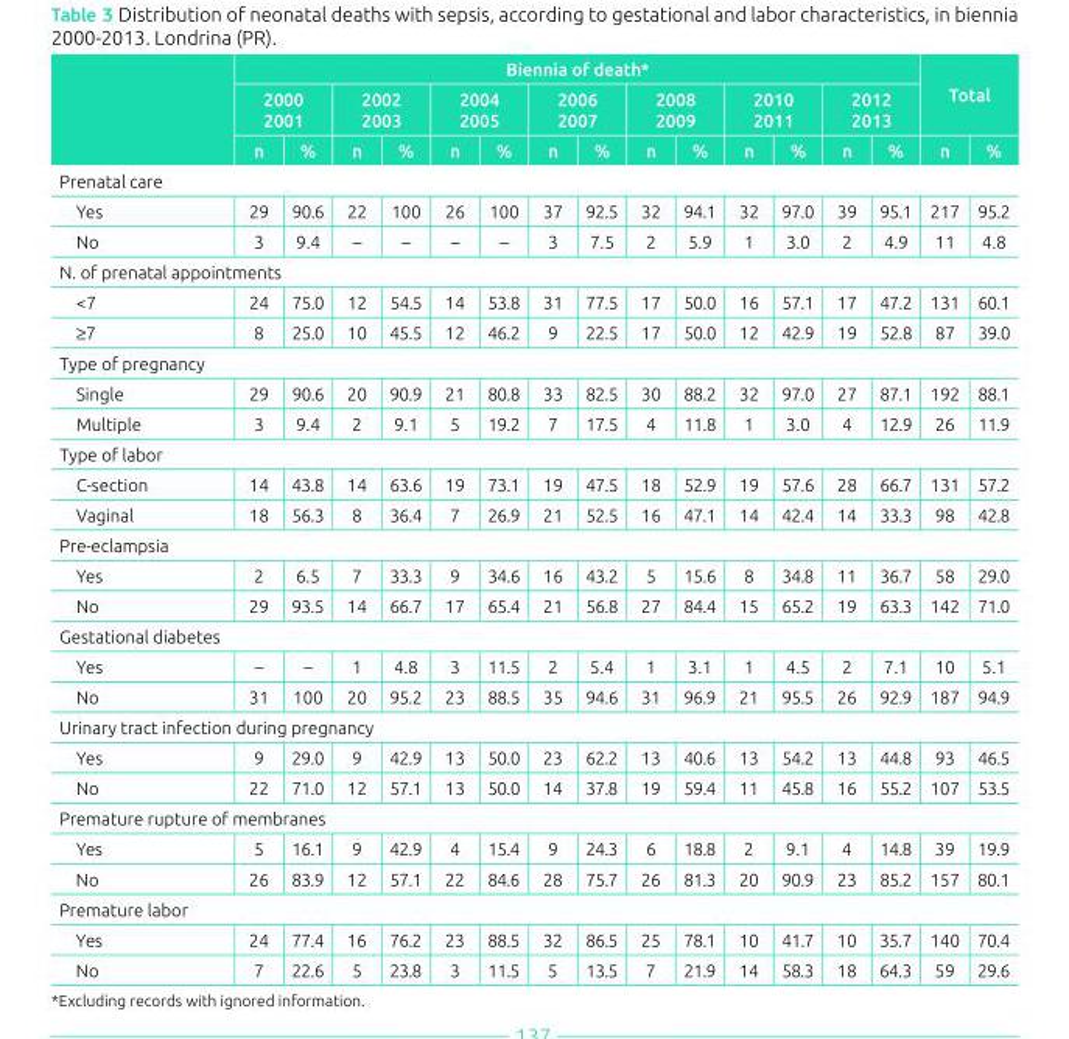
<table><thead><tr><td rowspan="3"></td><td colspan="14">Biennia of death*</td><td rowspan="2" colspan="2">Total</td></tr><tr><td colspan="2">2000 2001</td><td colspan="2">2002 2003</td><td colspan="2">2004 2005</td><td colspan="2">2006 2007</td><td colspan="2">2008 2009</td><td colspan="2">2010 2011</td><td colspan="2">2012 2013</td></tr><tr><td>n</td><td>%</td><td>n</td><td>%</td><td>n</td><td>%</td><td>n</td><td>%</td><td>n</td><td>%</td><td>n</td><td>%</td><td>n</td><td>%</td><td>n</td><td>%</td></tr></thead><tbody><tr><td colspan="17">Prenatal care</td></tr><tr><td>Yes</td><td>29</td><td>90.6</td><td>22</td><td>100</td><td>26</td><td>100</td><td>37</td><td>92.5</td><td>32</td><td>94.1</td><td>32</td><td>97.0</td><td>39</td><td>95.1</td><td>217</td><td>95.2</td></tr><tr><td>No</td><td>3</td><td>9.4</td><td>–</td><td>–</td><td>–</td><td>–</td><td>3</td><td>7.5</td><td>2</td><td>5.9</td><td>1</td><td>3.0</td><td>2</td><td>4.9</td><td>11</td><td>4.8</td></tr><tr><td colspan="17">N. of prenatal appointments</td></tr><tr><td>&lt;7</td><td>24</td><td>75.0</td><td>12</td><td>54.5</td><td>14</td><td>53.8</td><td>31</td><td>77.5</td><td>17</td><td>50.0</td><td>16</td><td>57.1</td><td>17</td><td>47.2</td><td>131</td><td>60.1</td></tr><tr><td>≥7</td><td>8</td><td>25.0</td><td>10</td><td>45.5</td><td>12</td><td>46.2</td><td>9</td><td>22.5</td><td>17</td><td>50.0</td><td>12</td><td>42.9</td><td>19</td><td>52.8</td><td>87</td><td>39.0</td></tr><tr><td colspan="17">Type of pregnancy</td></tr><tr><td>Single</td><td>29</td><td>90.6</td><td>20</td><td>90.9</td><td>21</td><td>80.8</td><td>33</td><td>82.5</td><td>30</td><td>88.2</td><td>32</td><td>97.0</td><td>27</td><td>87.1</td><td>192</td><td>88.1</td></tr><tr><td>Multiple</td><td>3</td><td>9.4</td><td>2</td><td>9.1</td><td>5</td><td>19.2</td><td>7</td><td>17.5</td><td>4</td><td>11.8</td><td>1</td><td>3.0</td><td>4</td><td>12.9</td><td>26</td><td>11.9</td></tr><tr><td colspan="17">Type of labor</td></tr><tr><td>C-section</td><td>14</td><td>43.8</td><td>14</td><td>63.6</td><td>19</td><td>73.1</td><td>19</td><td>47.5</td><td>18</td><td>52.9</td><td>19</td><td>57.6</td><td>28</td><td>66.7</td><td>131</td><td>57.2</td></tr><tr><td>Vaginal</td><td>18</td><td>56.3</td><td>8</td><td>36.4</td><td>7</td><td>26.9</td><td>21</td><td>52.5</td><td>16</td><td>47.1</td><td>14</td><td>42.4</td><td>14</td><td>33.3</td><td>98</td><td>42.8</td></tr><tr><td colspan="17">Pre-eclampsia</td></tr><tr><td>Yes</td><td>2</td><td>6.5</td><td>7</td><td>33.3</td><td>9</td><td>34.6</td><td>16</td><td>43.2</td><td>5</td><td>15.6</td><td>8</td><td>34.8</td><td>11</td><td>36.7</td><td>58</td><td>29.0</td></tr><tr><td>No</td><td>29</td><td>93.5</td><td>14</td><td>66.7</td><td>17</td><td>65.4</td><td>21</td><td>56.8</td><td>27</td><td>84.4</td><td>15</td><td>65.2</td><td>19</td><td>63.3</td><td>142</td><td>71.0</td></tr><tr><td colspan="17">Gestational diabetes</td></tr><tr><td>Yes</td><td>–</td><td>–</td><td>1</td><td>4.8</td><td>3</td><td>11.5</td><td>2</td><td>5.4</td><td>1</td><td>3.1</td><td>1</td><td>4.5</td><td>2</td><td>7.1</td><td>10</td><td>5.1</td></tr><tr><td>No</td><td>31</td><td>100</td><td>20</td><td>95.2</td><td>23</td><td>88.5</td><td>35</td><td>94.6</td><td>31</td><td>96.9</td><td>21</td><td>95.5</td><td>26</td><td>92.9</td><td>187</td><td>94.9</td></tr><tr><td colspan="17">Urinary tract infection during pregnancy</td></tr><tr><td>Yes</td><td>9</td><td>29.0</td><td>9</td><td>42.9</td><td>13</td><td>50.0</td><td>23</td><td>62.2</td><td>13</td><td>40.6</td><td>13</td><td>54.2</td><td>13</td><td>44.8</td><td>93</td><td>46.5</td></tr><tr><td>No</td><td>22</td><td>71.0</td><td>12</td><td>57.1</td><td>13</td><td>50.0</td><td>14</td><td>37.8</td><td>19</td><td>59.4</td><td>11</td><td>45.8</td><td>16</td><td>55.2</td><td>107</td><td>53.5</td></tr><tr><td colspan="17">Premature rupture of membranes</td></tr><tr><td>Yes</td><td>5</td><td>16.1</td><td>9</td><td>42.9</td><td>4</td><td>15.4</td><td>9</td><td>24.3</td><td>6</td><td>18.8</td><td>2</td><td>9.1</td><td>4</td><td>14.8</td><td>39</td><td>19.9</td></tr><tr><td>No</td><td>26</td><td>83.9</td><td>12</td><td>57.1</td><td>22</td><td>84.6</td><td>28</td><td>75.7</td><td>26</td><td>81.3</td><td>20</td><td>90.9</td><td>23</td><td>85.2</td><td>157</td><td>80.1</td></tr><tr><td colspan="17">Premature labor</td></tr><tr><td>Yes</td><td>24</td><td>77.4</td><td>16</td><td>76.2</td><td>23</td><td>88.5</td><td>32</td><td>86.5</td><td>25</td><td>78.1</td><td>10</td><td>41.7</td><td>10</td><td>35.7</td><td>140</td><td>70.4</td></tr><tr><td>No</td><td>7</td><td>22.6</td><td>5</td><td>23.8</td><td>3</td><td>11.5</td><td>5</td><td>13.5</td><td>7</td><td>21.9</td><td>14</td><td>58.3</td><td>18</td><td>64.3</td><td>59</td><td>29.6</td></tr></tbody></table>